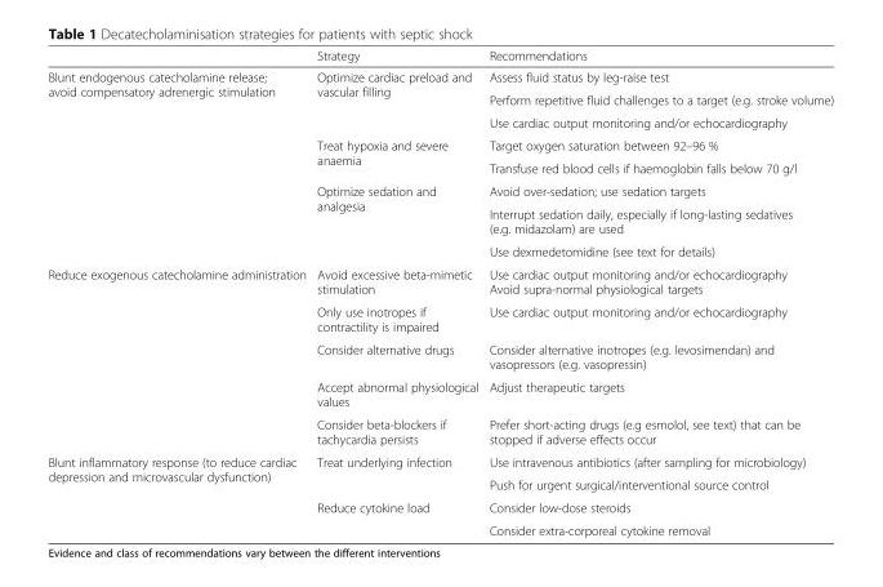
<table><thead><tr><td></td><td>Strategy</td><td>Recommendations</td></tr></thead><tbody><tr><td rowspan="8">Blunt endogenous catecholamine release; avoid compensatory adrenergic stimulation</td><td rowspan="3">Optimize cardiac preload and vascular filling</td><td>Assess fluid status by leg-raise test</td></tr><tr><td>Perform repetitive fluid challenges to a target (e.g. stroke volume)</td></tr><tr><td>Use cardiac output monitoring and/or echocardiography</td></tr><tr><td rowspan="2">Treat hypoxia and severe anaemia</td><td>Target oxygen saturation between 92–96 %</td></tr><tr><td>Transfuse red blood cells if haemoglobin falls below 70 g/l</td></tr><tr><td rowspan="3">Optimize sedation and analgesia</td><td>Avoid over-sedation; use sedation targets</td></tr><tr><td>Interrupt sedation daily, especially if long-lasting sedatives (e.g. midazolam) are used</td></tr><tr><td>Use dexmedetomidine (see text for details)</td></tr><tr><td rowspan="5">Reduce exogenous catecholamine administration</td><td>Avoid excessive beta-mimetic stimulation</td><td>Use cardiac output monitoring and/or echocardiography Avoid supra-normal physiological targets</td></tr><tr><td>Only use inotropes if contractility is impaired</td><td>Use cardiac output monitoring and/or echocardiography</td></tr><tr><td>Consider alternative drugs</td><td>Consider alternative inotropes (e.g. levosimendan) and vasopressors (e.g. vasopressin)</td></tr><tr><td>Accept abnormal physiological values</td><td>Adjust therapeutic targets</td></tr><tr><td>Consider beta-blockers if tachycardia persists</td><td>Prefer short-acting drugs (e.g esmolol, see text) that can be stopped if adverse effects occur</td></tr><tr><td rowspan="4">Blunt inflammatory response (to reduce cardiac depression and microvascular dysfunction)</td><td rowspan="2">Treat underlying infection</td><td>Use intravenous antibiotics (after sampling for microbiology)</td></tr><tr><td>Push for urgent surgical/interventional source control</td></tr><tr><td rowspan="2">Reduce cytokine load</td><td>Consider low-dose steroids</td></tr><tr><td>Consider extra-corporeal cytokine removal</td></tr></tbody></table>